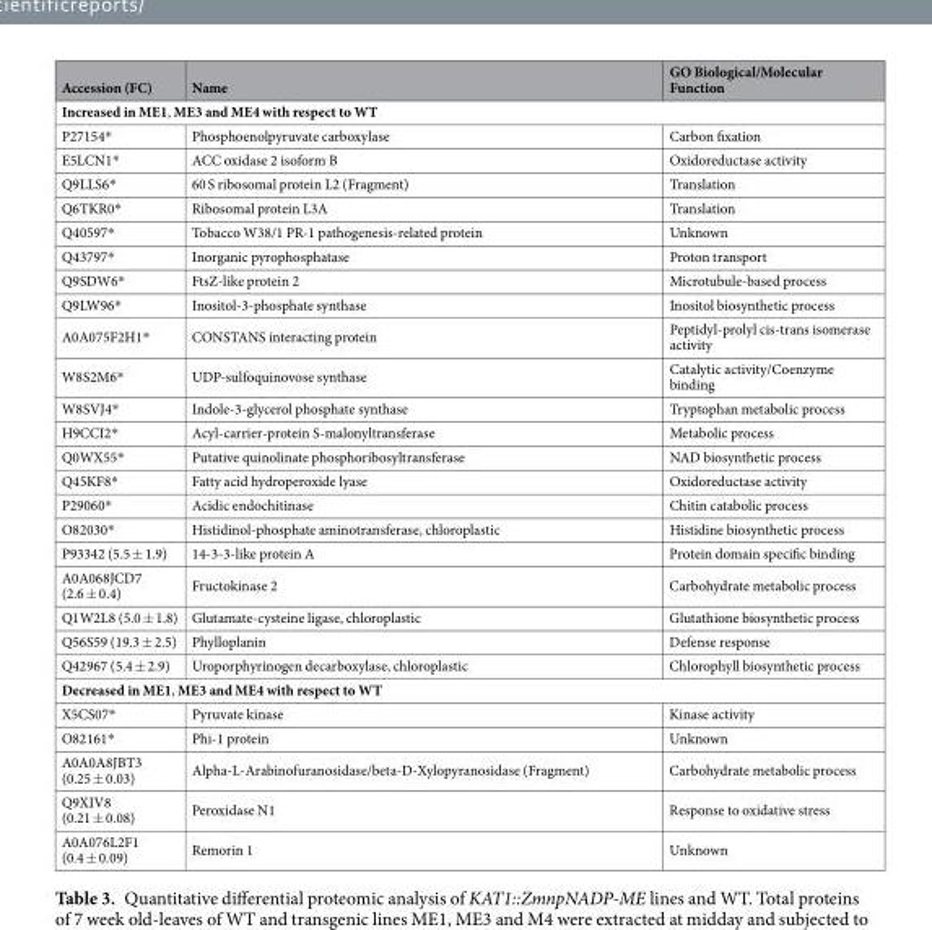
<table><thead><tr><td>Accession (FC)</td><td>Name</td><td>GO Biological/Molecular Function</td></tr></thead><tbody><tr><td colspan="3">Increased in ME1, ME3 and ME4 with respect to WT</td></tr><tr><td>P27154*</td><td>Phosphoenolpyruvate carboxylase</td><td>Carbon fixation</td></tr><tr><td>E5LCN1*</td><td>ACC oxidase 2 isoform B</td><td>Oxidoreductase activity</td></tr><tr><td>Q9LLS6*</td><td>60 S ribosomal protein L2 (Fragment)</td><td>Translation</td></tr><tr><td>Q6TKR0*</td><td>Ribosomal protein L3A</td><td>Translation</td></tr><tr><td>Q40597*</td><td>Tobacco W38/1 PR-1 pathogenesis-related protein</td><td>Unknown</td></tr><tr><td>Q43797*</td><td>Inorganic pyrophosphatase</td><td>Proton transport</td></tr><tr><td>Q9SDW6*</td><td>FtsZ-like protein 2</td><td>Microtubule-based process</td></tr><tr><td>Q9LW96*</td><td>Inositol-3-phosphate synthase</td><td>Inositol biosynthetic process</td></tr><tr><td>A0A075F2H1*</td><td>CONSTANS interacting protein</td><td>Peptidyl-prolyl cis-trans isomerase activity</td></tr><tr><td>W8S2M6*</td><td>UDP-sulfoquinovose synthase</td><td>Catalytic activity/Coenzyme binding</td></tr><tr><td>W8SVJ4*</td><td>Indole-3-glycerol phosphate synthase</td><td>Tryptophan metabolic process</td></tr><tr><td>H9CCI2*</td><td>Acyl-carrier-protein S-malonyltransferase</td><td>Metabolic process</td></tr><tr><td>Q0WX55*</td><td>Putative quinolinate phosphoribosyltransferase</td><td>NAD biosynthetic process</td></tr><tr><td>Q45KF8*</td><td>Fatty acid hydroperoxide lyase</td><td>Oxidoreductase activity</td></tr><tr><td>P29060*</td><td>Acidic endochitinase</td><td>Chitin catabolic process</td></tr><tr><td>O82030*</td><td>Histidinol-phosphate aminotransferase, chloroplastic</td><td>Histidine biosynthetic process</td></tr><tr><td>P93342 (5.5 ± 1.9)</td><td>14-3-3-like protein A</td><td>Protein domain specific binding</td></tr><tr><td>A0A068JCD7 (2.6 ± 0.4)</td><td>Fructokinase 2</td><td>Carbohydrate metabolic process</td></tr><tr><td>Q1W2L8 (5.0 ± 1.8)</td><td>Glutamate-cysteine ligase, chloroplastic</td><td>Glutathione biosynthetic process</td></tr><tr><td>Q56S59 (19.3 ± 2.5)</td><td>Phylloplanin</td><td>Defense response</td></tr><tr><td>Q42967 (5.4 ± 2.9)</td><td>Uroporphyrinogen decarboxylase, chloroplastic</td><td>Chlorophyll biosynthetic process</td></tr><tr><td colspan="3">Decreased in ME1, ME3 and ME4 with respect to WT</td></tr><tr><td>X5CS07*</td><td>Pyruvate kinase</td><td>Kinase activity</td></tr><tr><td>O82161*</td><td>Phi-1 protein</td><td>Unknown</td></tr><tr><td>A0A0A8JBT3 (0.25 ± 0.03)</td><td>Alpha-L-Arabinofuranosidase/beta-D-Xylopyranosidase (Fragment)</td><td>Carbohydrate metabolic process</td></tr><tr><td>Q9XIV8 (0.21 ± 0.08)</td><td>Peroxidase N1</td><td>Response to oxidative stress</td></tr><tr><td>A0A076L2F1 (0.4 ± 0.09)</td><td>Remorin 1</td><td>Unknown</td></tr></tbody></table>